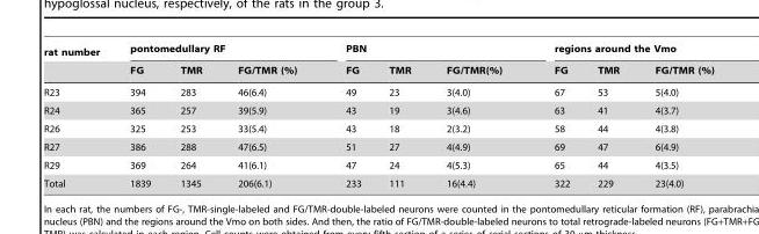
<table><thead><tr><td rowspan="2">rat number</td><td colspan="3">pontomedullary RF</td><td colspan="3">PBN</td><td colspan="3">regions around the Vmo</td></tr><tr><td>FG</td><td>TMR</td><td>FG/TMR (%)</td><td>FG</td><td>TMR</td><td>FG/TMR(%)</td><td>FG</td><td>TMR</td><td>FG/TMR (%)</td></tr></thead><tbody><tr><td>R23</td><td>394</td><td>283</td><td>46(6.4)</td><td>49</td><td>23</td><td>3(4.0)</td><td>67</td><td>53</td><td>5(4.0)</td></tr><tr><td>R24</td><td>365</td><td>257</td><td>39(5.9)</td><td>43</td><td>19</td><td>3(4.6)</td><td>63</td><td>41</td><td>4(3.7)</td></tr><tr><td>R26</td><td>325</td><td>253</td><td>33(5.4)</td><td>43</td><td>18</td><td>2(3.2)</td><td>58</td><td>44</td><td>4(3.8)</td></tr><tr><td>R27</td><td>386</td><td>288</td><td>47(6.5)</td><td>51</td><td>27</td><td>4(4.9)</td><td>69</td><td>47</td><td>6(4.9)</td></tr><tr><td>R29</td><td>369</td><td>264</td><td>41(6.1)</td><td>47</td><td>24</td><td>4(5.3)</td><td>65</td><td>44</td><td>4(3.5)</td></tr><tr><td>Total</td><td>1839</td><td>1345</td><td>206(6.1)</td><td>233</td><td>111</td><td>16(4.4)</td><td>322</td><td>229</td><td>23(4.0)</td></tr></tbody></table>